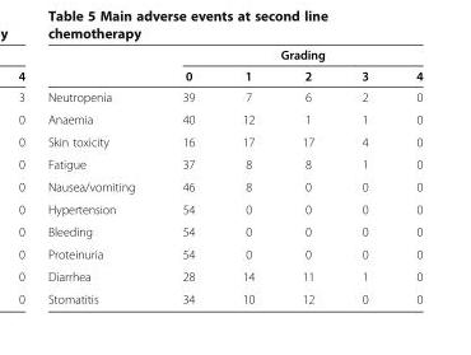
<table><thead><tr><td rowspan="2"></td><td colspan="5">Grading</td></tr><tr><td>0</td><td>1</td><td>2</td><td>3</td><td>4</td></tr></thead><tbody><tr><td>Neutropenia</td><td>39</td><td>7</td><td>6</td><td>2</td><td>0</td></tr><tr><td>Anaemia</td><td>40</td><td>12</td><td>1</td><td>1</td><td>0</td></tr><tr><td>Skin toxicity</td><td>16</td><td>17</td><td>17</td><td>4</td><td>0</td></tr><tr><td>Fatigue</td><td>37</td><td>8</td><td>8</td><td>1</td><td>0</td></tr><tr><td>Nausea/vomiting</td><td>46</td><td>8</td><td>0</td><td>0</td><td>0</td></tr><tr><td>Hypertension</td><td>54</td><td>0</td><td>0</td><td>0</td><td>0</td></tr><tr><td>Bleeding</td><td>54</td><td>0</td><td>0</td><td>0</td><td>0</td></tr><tr><td>Proteinuria</td><td>54</td><td>0</td><td>0</td><td>0</td><td>0</td></tr><tr><td>Diarrhea</td><td>28</td><td>14</td><td>11</td><td>1</td><td>0</td></tr><tr><td>Stomatitis</td><td>34</td><td>10</td><td>12</td><td>0</td><td>0</td></tr></tbody></table>